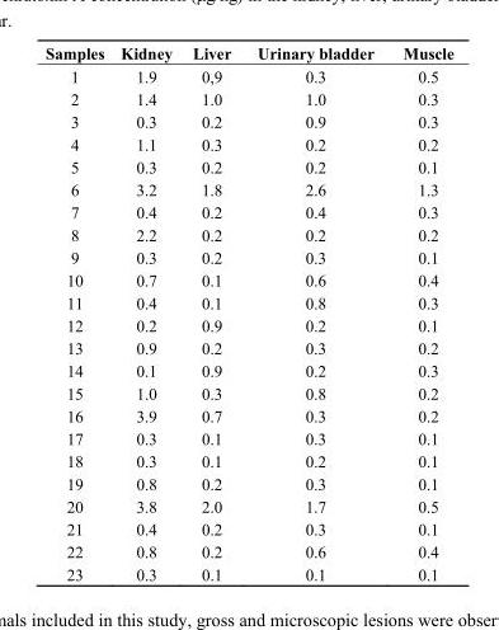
<table><thead><tr><td>Samples</td><td>Kidney</td><td>Liver</td><td>Urinary bladder</td><td>Muscle</td></tr></thead><tbody><tr><td>1</td><td>1.9</td><td>0,9</td><td>0.3</td><td>0.5</td></tr><tr><td>2</td><td>1.4</td><td>1.0</td><td>1.0</td><td>0.3</td></tr><tr><td>3</td><td>0.3</td><td>0.2</td><td>0.9</td><td>0.3</td></tr><tr><td>4</td><td>1.1</td><td>0.3</td><td>0.2</td><td>0.2</td></tr><tr><td>5</td><td>0.3</td><td>0.2</td><td>0.2</td><td>0.1</td></tr><tr><td>6</td><td>3.2</td><td>1.8</td><td>2.6</td><td>1.3</td></tr><tr><td>7</td><td>0.4</td><td>0.2</td><td>0.4</td><td>0.3</td></tr><tr><td>8</td><td>2.2</td><td>0.2</td><td>0.2</td><td>0.2</td></tr><tr><td>9</td><td>0.3</td><td>0.2</td><td>0.3</td><td>0.1</td></tr><tr><td>10</td><td>0.7</td><td>0.1</td><td>0.6</td><td>0.4</td></tr><tr><td>11</td><td>0.4</td><td>0.1</td><td>0.8</td><td>0.3</td></tr><tr><td>12</td><td>0.2</td><td>0.9</td><td>0.2</td><td>0.1</td></tr><tr><td>13</td><td>0.9</td><td>0.2</td><td>0.3</td><td>0.2</td></tr><tr><td>14</td><td>0.1</td><td>0.9</td><td>0.2</td><td>0.3</td></tr><tr><td>15</td><td>1.0</td><td>0.3</td><td>0.8</td><td>0.2</td></tr><tr><td>16</td><td>3.9</td><td>0.7</td><td>0.3</td><td>0.2</td></tr><tr><td>17</td><td>0.3</td><td>0.1</td><td>0.3</td><td>0.1</td></tr><tr><td>18</td><td>0.3</td><td>0.1</td><td>0.2</td><td>0.1</td></tr><tr><td>19</td><td>0.8</td><td>0.2</td><td>0.3</td><td>0.1</td></tr><tr><td>20</td><td>3.8</td><td>2.0</td><td>1.7</td><td>0.5</td></tr><tr><td>21</td><td>0.4</td><td>0.2</td><td>0.3</td><td>0.1</td></tr><tr><td>22</td><td>0.8</td><td>0.2</td><td>0.6</td><td>0.4</td></tr><tr><td>23</td><td>0.3</td><td>0.1</td><td>0.1</td><td>0.1</td></tr></tbody></table>